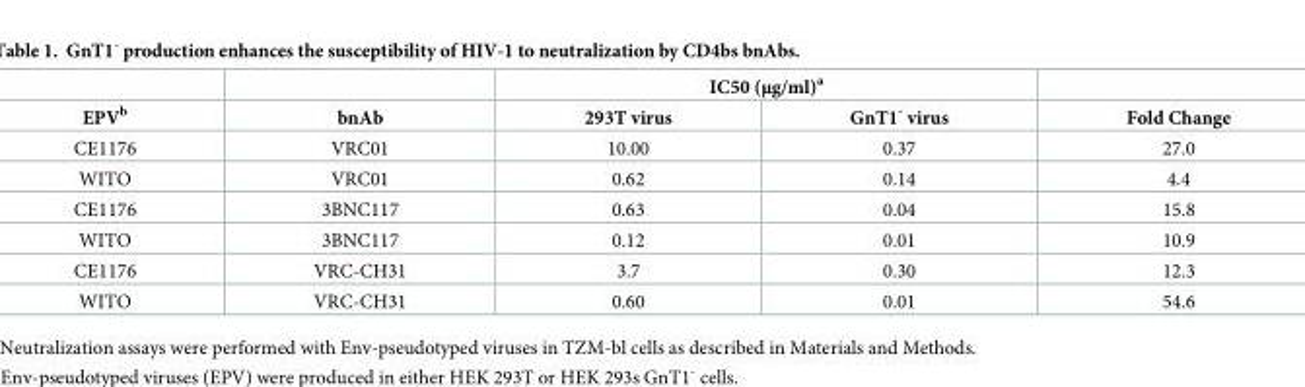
<table><thead><tr><td rowspan="2">EPV<sup>b</sup></td><td rowspan="2">bnAb</td><td colspan="2">IC50 (μg/ml)<sup>a</sup></td><td rowspan="2">Fold Change</td></tr><tr><td>293T virus</td><td>GnT1<sup>-</sup> virus</td></tr></thead><tbody><tr><td>CE1176</td><td>VRC01</td><td>10.00</td><td>0.37</td><td>27.0</td></tr><tr><td>WITO</td><td>VRC01</td><td>0.62</td><td>0.14</td><td>4.4</td></tr><tr><td>CE1176</td><td>3BNC117</td><td>0.63</td><td>0.04</td><td>15.8</td></tr><tr><td>WITO</td><td>3BNC117</td><td>0.12</td><td>0.01</td><td>10.9</td></tr><tr><td>CE1176</td><td>VRC-CH31</td><td>3.7</td><td>0.30</td><td>12.3</td></tr><tr><td>WITO</td><td>VRC-CH31</td><td>0.60</td><td>0.01</td><td>54.6</td></tr></tbody></table>